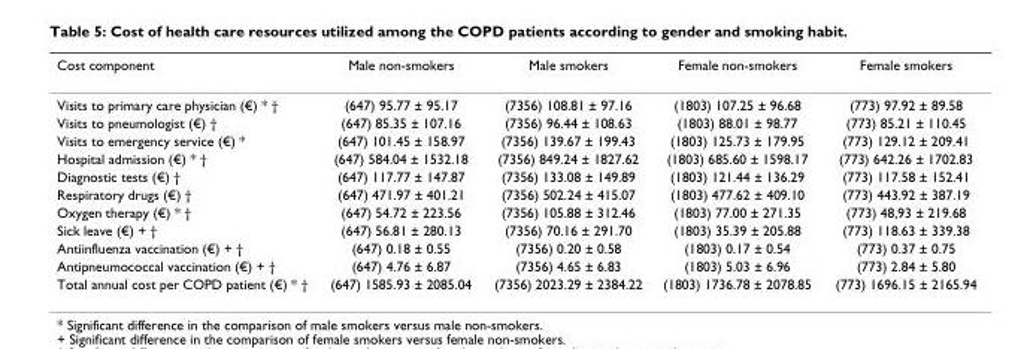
<table><thead><tr><td>Cost component</td><td>Male non-smokers</td><td>Male smokers</td><td>Female non-smokers</td><td>Female smokers</td></tr></thead><tbody><tr><td>Visits to primary care physician (€) * †</td><td>(647) 95.77 ± 95.17</td><td>(7356) 108.81 ± 97.16</td><td>(1803) 107.25 ± 96.68</td><td>(773) 97.92 ± 89.58</td></tr><tr><td>Visits to pneumologist (€) †</td><td>(647) 85.35 ± 107.16</td><td>(7356) 96.44 ± 108.63</td><td>(1803) 88.01 ± 98.77</td><td>(773) 85.21 ± 110.45</td></tr><tr><td>Visits to emergency service (€) *</td><td>(647) 101.45 ± 158.97</td><td>(7356) 139.67 ± 199.43</td><td>(1803) 125.73 ± 179.95</td><td>(773) 129.12 ± 209.41</td></tr><tr><td>Hospital admission (€) * †</td><td>(647) 584.04 ± 1532.18</td><td>(7356) 849.24 ± 1827.62</td><td>(1803) 685.60 ± 1598.17</td><td>(773) 642.26 ± 1702.83</td></tr><tr><td>Diagnostic tests (€) †</td><td>(647) 117.77 ± 147.87</td><td>(7356) 133.08 ± 149.89</td><td>(1803) 121.44 ± 136.29</td><td>(773) 117.58 ± 152.41</td></tr><tr><td>Respiratory drugs (€) †</td><td>(647) 471.97 ± 401.21</td><td>(7356) 502.24 ± 415.07</td><td>(1803) 477.62 ± 409.10</td><td>(773) 443.92 ± 387.19</td></tr><tr><td>Oxygen therapy (€) * †</td><td>(647) 54.72 ± 223.56</td><td>(7356) 105.88 ± 312.46</td><td>(1803) 77.00 ± 271.35</td><td>(773) 48,93 ± 219.68</td></tr><tr><td>Sick leave (€) + †</td><td>(647) 56.81 ± 280.13</td><td>(7356) 70.16 ± 291.70</td><td>(1803) 35.39 ± 205.88</td><td>(773) 118.63 ± 339.38</td></tr><tr><td>Antiinfluenza vaccination (€) + †</td><td>(647) 0.18 ± 0.55</td><td>(7356) 0.20 ± 0.58</td><td>(1803) 0.17 ± 0.54</td><td>(773) 0.37 ± 0.75</td></tr><tr><td>Antipneumococcal vaccination (€) + †</td><td>(647) 4.76 ± 6.87</td><td>(7356) 4.65 ± 6.83</td><td>(1803) 5.03 ± 6.96</td><td>(773) 2.84 ± 5.80</td></tr><tr><td>Total annual cost per COPD patient (€) * †</td><td>(647) 1585.93 ± 2085.04</td><td>(7356) 2023.29 ± 2384.22</td><td>(1803) 1736.78 ± 2078.85</td><td>(773) 1696.15 ± 2165.94</td></tr></tbody></table>